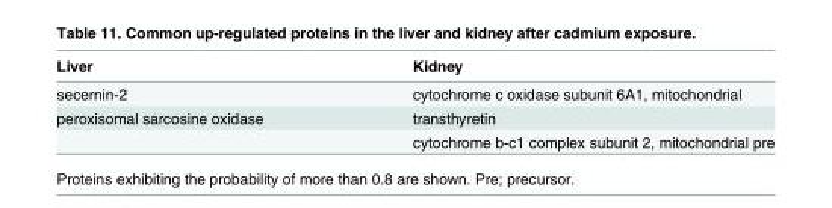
<table><thead><tr><td>Liver</td><td>Kidney</td></tr></thead><tbody><tr><td>secernin-2</td><td>cytochrome c oxidase subunit 6A1, mitochondrial</td></tr><tr><td rowspan="2">peroxisomal sarcosine oxidase</td><td>transthyretin</td></tr><tr><td>cytochrome b-c1 complex subunit 2, mitochondrial pre</td></tr></tbody></table>